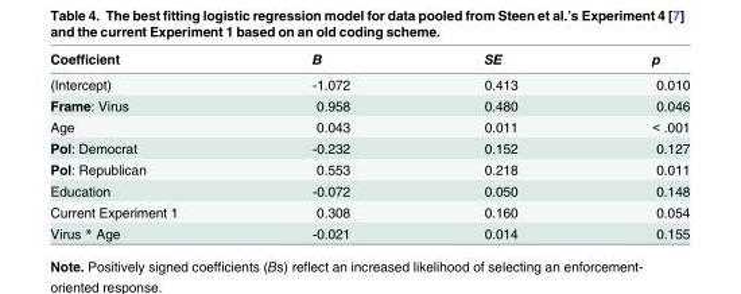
<table><thead><tr><td>Coefficient</td><td>B</td><td>SE</td><td>p</td></tr></thead><tbody><tr><td>(Intercept)</td><td>-1.072</td><td>0.413</td><td>0.010</td></tr><tr><td>Frame: Virus</td><td>0.958</td><td>0.480</td><td>0.046</td></tr><tr><td>Age</td><td>0.043</td><td>0.011</td><td>&lt; .001</td></tr><tr><td>Pol: Democrat</td><td>-0.232</td><td>0.152</td><td>0.127</td></tr><tr><td>Pol: Republican</td><td>0.553</td><td>0.218</td><td>0.011</td></tr><tr><td>Education</td><td>-0.072</td><td>0.050</td><td>0.148</td></tr><tr><td>Current Experiment 1</td><td>0.308</td><td>0.160</td><td>0.054</td></tr><tr><td>Virus * Age</td><td>-0.021</td><td>0.014</td><td>0.155</td></tr></tbody></table>